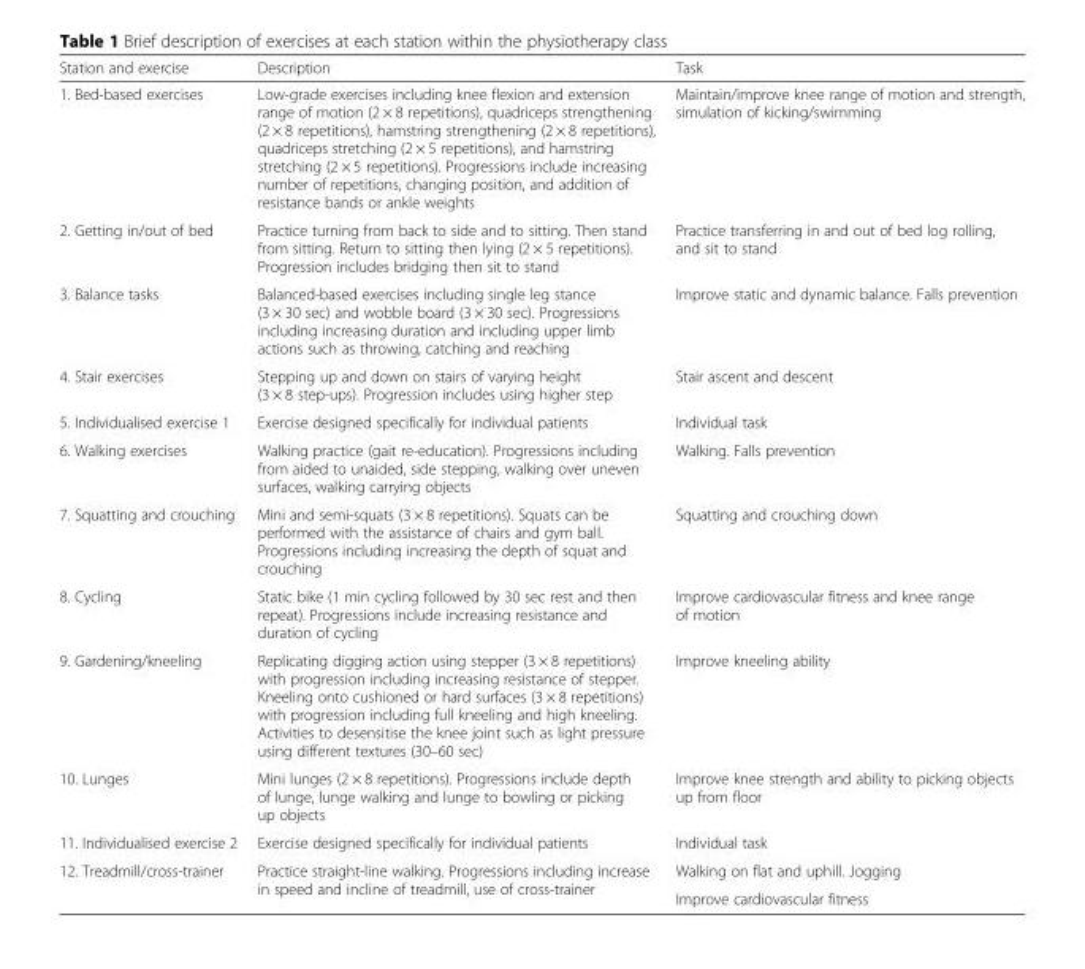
<table><thead><tr><td>Station and exercise</td><td>Description</td><td>Task</td></tr></thead><tbody><tr><td>1. Bed-based exercises</td><td>Low-grade exercises including knee flexion and extension range of motion (2 × 8 repetitions), quadriceps strengthening (2 × 8 repetitions), hamstring strengthening (2 × 8 repetitions), quadriceps stretching (2 × 5 repetitions), and hamstring stretching (2 × 5 repetitions). Progressions include increasing number of repetitions, changing position, and addition of resistance bands or ankle weights</td><td>Maintain/improve knee range of motion and strength, simulation of kicking/swimming</td></tr><tr><td>2. Getting in/out of bed</td><td>Practice turning from back to side and to sitting. Then stand from sitting. Return to sitting then lying (2 × 5 repetitions). Progression includes bridging then sit to stand</td><td>Practice transferring in and out of bed log rolling, and sit to stand</td></tr><tr><td>3. Balance tasks</td><td>Balanced-based exercises including single leg stance (3 × 30 sec) and wobble board (3 × 30 sec). Progressions including increasing duration and including upper limb actions such as throwing, catching and reaching</td><td>Improve static and dynamic balance. Falls prevention</td></tr><tr><td>4. Stair exercises</td><td>Stepping up and down on stairs of varying height (3 × 8 step-ups). Progression includes using higher step</td><td>Stair ascent and descent</td></tr><tr><td>5. Individualised exercise 1</td><td>Exercise designed specifically for individual patients</td><td>Individual task</td></tr><tr><td>6. Walking exercises</td><td>Walking practice (gait re-education). Progressions including from aided to unaided, side stepping, walking over uneven surfaces, walking carrying objects</td><td>Walking. Falls prevention</td></tr><tr><td>7. Squatting and crouching</td><td>Mini and semi-squats (3 × 8 repetitions). Squats can be performed with the assistance of chairs and gym ball. Progressions including increasing the depth of squat and crouching</td><td>Squatting and crouching down</td></tr><tr><td>8. Cycling</td><td>Static bike (1 min cycling followed by 30 sec rest and then repeat). Progressions include increasing resistance and duration of cycling</td><td>Improve cardiovascular fitness and knee range of motion</td></tr><tr><td>9. Gardening/kneeling</td><td>Replicating digging action using stepper (3 × 8 repetitions) with progression including increasing resistance of stepper. Kneeling onto cushioned or hard surfaces (3 × 8 repetitions) with progression including full kneeling and high kneeling. Activities to desensitise the knee joint such as light pressure using different textures (30–60 sec)</td><td>Improve kneeling ability</td></tr><tr><td>10. Lunges</td><td>Mini lunges (2 × 8 repetitions). Progressions include depth of lunge, lunge walking and lunge to bowling or picking up objects</td><td>Improve knee strength and ability to picking objects up from floor</td></tr><tr><td>11. Individualised exercise 2</td><td>Exercise designed specifically for individual patients</td><td>Individual task</td></tr><tr><td rowspan="2">12. Treadmill/cross-trainer</td><td rowspan="2">Practice straight-line walking. Progressions including increase in speed and incline of treadmill, use of cross-trainer</td><td>Walking on flat and uphill. Jogging</td></tr><tr><td>Improve cardiovascular fitness</td></tr></tbody></table>